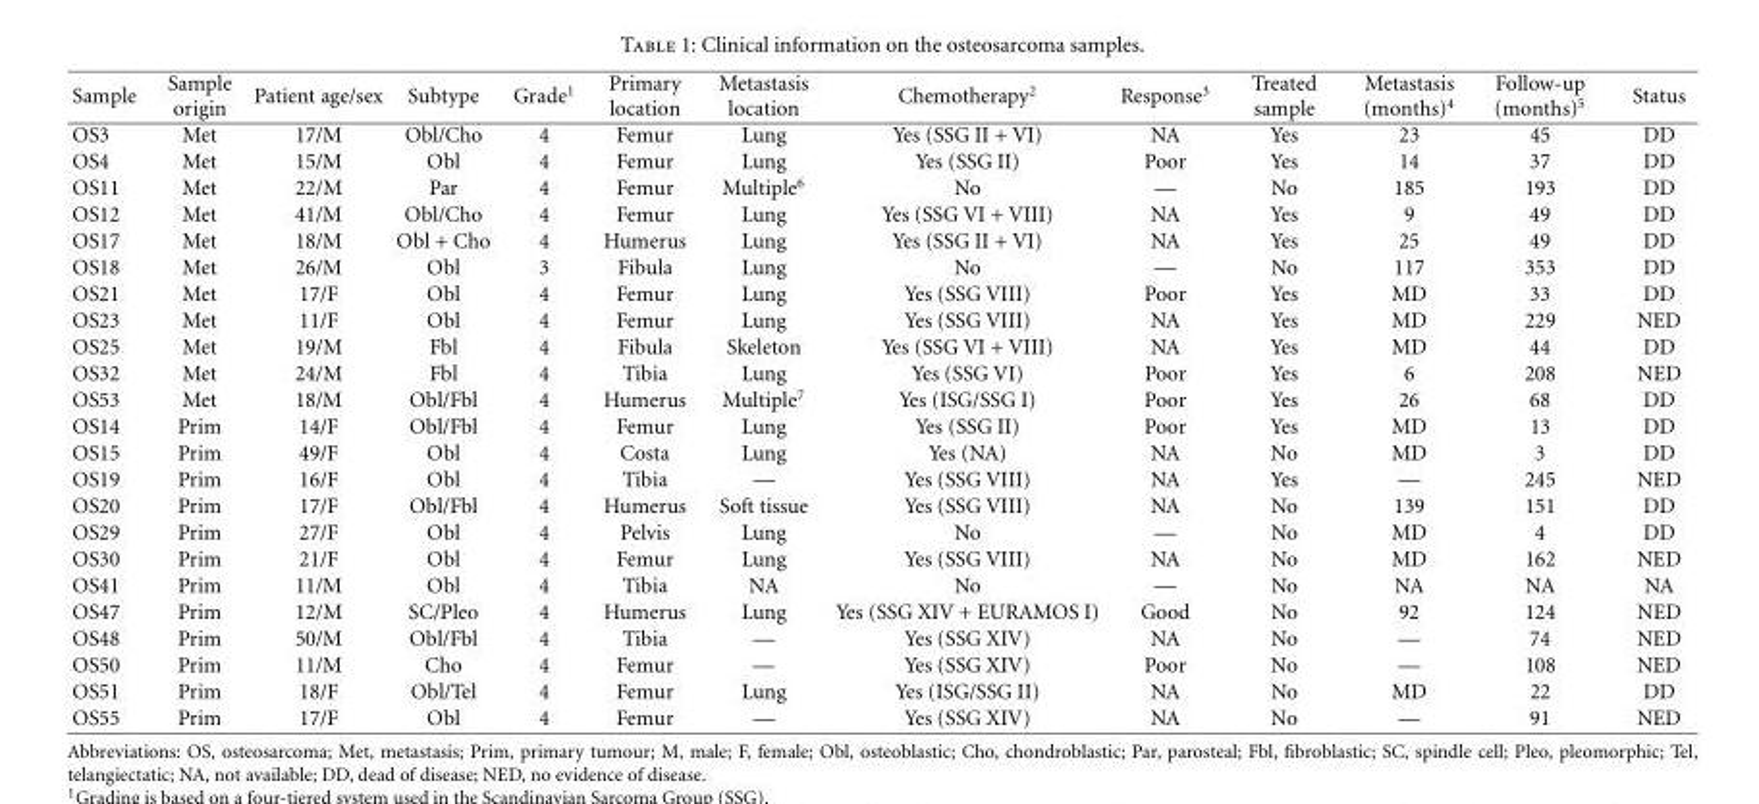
<table><thead><tr><td>Sample</td><td>Sample origin</td><td>Patient age/sex</td><td>Subtype</td><td>Grade<sup>1</sup></td><td>Primary location</td><td>Metastasis location</td><td>Chemotherapy<sup>2</sup></td><td>Response<sup>3</sup></td><td>Treated sample</td><td>Metastasis (months)<sup>4</sup></td><td>Follow-up (months)<sup>5</sup></td><td>Status</td></tr></thead><tbody><tr><td>OS3</td><td>Met</td><td>17/M</td><td>Obl/Cho</td><td>4</td><td>Femur</td><td>Lung</td><td>Yes (SSG II + VI)</td><td>NA</td><td>Yes</td><td>23</td><td>45</td><td>DD</td></tr><tr><td>OS4</td><td>Met</td><td>15/M</td><td>Obl</td><td>4</td><td>Femur</td><td>Lung</td><td>Yes (SSG II)</td><td>Poor</td><td>Yes</td><td>14</td><td>37</td><td>DD</td></tr><tr><td>OS11</td><td>Met</td><td>22/M</td><td>Par</td><td>4</td><td>Femur</td><td>Multiple<sup>6</sup></td><td>No</td><td>—</td><td>No</td><td>185</td><td>193</td><td>DD</td></tr><tr><td>OS12</td><td>Met</td><td>41/M</td><td>Obl/Cho</td><td>4</td><td>Femur</td><td>Lung</td><td>Yes (SSG VI + VIII)</td><td>NA</td><td>Yes</td><td>9</td><td>49</td><td>DD</td></tr><tr><td>OS17</td><td>Met</td><td>18/M</td><td>Obl + Cho</td><td>4</td><td>Humerus</td><td>Lung</td><td>Yes (SSG II + VI)</td><td>NA</td><td>Yes</td><td>25</td><td>49</td><td>DD</td></tr><tr><td>OS18</td><td>Met</td><td>26/M</td><td>Obl</td><td>3</td><td>Fibula</td><td>Lung</td><td>No</td><td>—</td><td>No</td><td>117</td><td>353</td><td>DD</td></tr><tr><td>OS21</td><td>Met</td><td>17/F</td><td>Obl</td><td>4</td><td>Femur</td><td>Lung</td><td>Yes (SSG VIII)</td><td>Poor</td><td>Yes</td><td>MD</td><td>33</td><td>DD</td></tr><tr><td>OS23</td><td>Met</td><td>11/F</td><td>Obl</td><td>4</td><td>Femur</td><td>Lung</td><td>Yes (SSG VIII)</td><td>NA</td><td>Yes</td><td>MD</td><td>229</td><td>NED</td></tr><tr><td>OS25</td><td>Met</td><td>19/M</td><td>Fbl</td><td>4</td><td>Fibula</td><td>Skeleton</td><td>Yes (SSG VI + VIII)</td><td>NA</td><td>Yes</td><td>MD</td><td>44</td><td>DD</td></tr><tr><td>OS32</td><td>Met</td><td>24/M</td><td>Fbl</td><td>4</td><td>Tibia</td><td>Lung</td><td>Yes (SSG VI)</td><td>Poor</td><td>Yes</td><td>6</td><td>208</td><td>NED</td></tr><tr><td>OS53</td><td>Met</td><td>18/M</td><td>Obl/Fbl</td><td>4</td><td>Humerus</td><td>Multiple<sup>7</sup></td><td>Yes (ISG/SSG I)</td><td>Poor</td><td>Yes</td><td>26</td><td>68</td><td>DD</td></tr><tr><td>OS14</td><td>Prim</td><td>14/F</td><td>Obl/Fbl</td><td>4</td><td>Femur</td><td>Lung</td><td>Yes (SSG II)</td><td>Poor</td><td>Yes</td><td>MD</td><td>13</td><td>DD</td></tr><tr><td>OS15</td><td>Prim</td><td>49/F</td><td>Obl</td><td>4</td><td>Costa</td><td>Lung</td><td>Yes (NA)</td><td>NA</td><td>No</td><td>MD</td><td>3</td><td>DD</td></tr><tr><td>OS19</td><td>Prim</td><td>16/F</td><td>Obl</td><td>4</td><td>Tibia</td><td>—</td><td>Yes (SSG VIII)</td><td>NA</td><td>Yes</td><td>—</td><td>245</td><td>NED</td></tr><tr><td>OS20</td><td>Prim</td><td>17/F</td><td>Obl/Fbl</td><td>4</td><td>Humerus</td><td>Soft tissue</td><td>Yes (SSG VIII)</td><td>NA</td><td>No</td><td>139</td><td>151</td><td>DD</td></tr><tr><td>OS29</td><td>Prim</td><td>27/F</td><td>Obl</td><td>4</td><td>Pelvis</td><td>Lung</td><td>No</td><td>—</td><td>No</td><td>MD</td><td>4</td><td>DD</td></tr><tr><td>OS30</td><td>Prim</td><td>21/F</td><td>Obl</td><td>4</td><td>Femur</td><td>Lung</td><td>Yes (SSG VIII)</td><td>NA</td><td>No</td><td>MD</td><td>162</td><td>NED</td></tr><tr><td>OS41</td><td>Prim</td><td>11/M</td><td>Obl</td><td>4</td><td>Tibia</td><td>NA</td><td>No</td><td>—</td><td>No</td><td>NA</td><td>NA</td><td>NA</td></tr><tr><td>OS47</td><td>Prim</td><td>12/M</td><td>SC/Pleo</td><td>4</td><td>Humerus</td><td>Lung</td><td>Yes (SSG XIV + EURAMOS I)</td><td>Good</td><td>No</td><td>92</td><td>124</td><td>NED</td></tr><tr><td>OS48</td><td>Prim</td><td>50/M</td><td>Obl/Fbl</td><td>4</td><td>Tibia</td><td>—</td><td>Yes (SSG XIV)</td><td>NA</td><td>No</td><td>—</td><td>74</td><td>NED</td></tr><tr><td>OS50</td><td>Prim</td><td>11/M</td><td>Cho</td><td>4</td><td>Femur</td><td>—</td><td>Yes (SSG XIV)</td><td>Poor</td><td>No</td><td>—</td><td>108</td><td>NED</td></tr><tr><td>OS51</td><td>Prim</td><td>18/F</td><td>Obl/Tel</td><td>4</td><td>Femur</td><td>Lung</td><td>Yes (ISG/SSG II)</td><td>NA</td><td>No</td><td>MD</td><td>22</td><td>DD</td></tr><tr><td>OS55</td><td>Prim</td><td>17/F</td><td>Obl</td><td>4</td><td>Femur</td><td>—</td><td>Yes (SSG XIV)</td><td>NA</td><td>No</td><td>—</td><td>91</td><td>NED</td></tr></tbody></table>